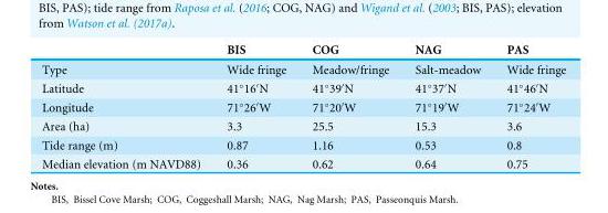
<table><thead><tr><td></td><td>BIS</td><td>COG</td><td>NAG</td><td>PAS</td></tr></thead><tbody><tr><td>Type</td><td>Wide fringe</td><td>Meadow/fringe</td><td>Salt-meadow</td><td>Wide fringe</td></tr><tr><td>Latitude</td><td>41◦16′N</td><td>41◦39′N</td><td>41◦37′N</td><td>41◦46′N</td></tr><tr><td>Longitude</td><td>71◦26′W</td><td>71◦20′W</td><td>71◦19′W</td><td>71◦24′W</td></tr><tr><td>Area (ha)</td><td>3.3</td><td>25.5</td><td>15.3</td><td>3.6</td></tr><tr><td>Tide range (m)</td><td>0.87</td><td>1.16</td><td>0.53</td><td>0.8</td></tr><tr><td>Median elevation (m NAVD88)</td><td>0.36</td><td>0.62</td><td>0.64</td><td>0.75</td></tr></tbody></table>